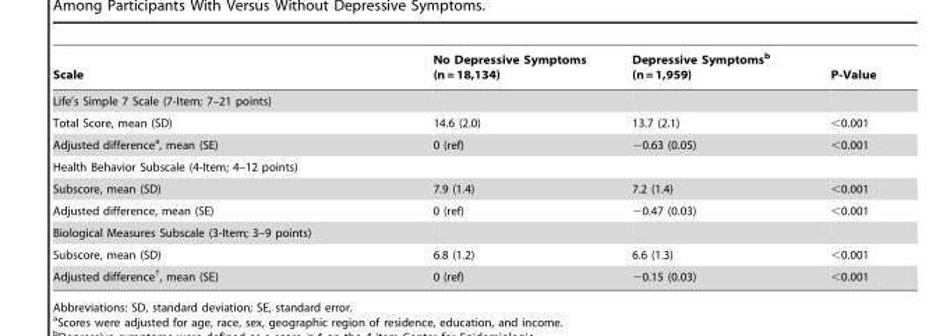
<table><thead><tr><td>Scale</td><td>No Depressive Symptoms (n = 18,134)</td><td>Depressive Symptoms<sup>b</sup> (n = 1,959)</td><td>P-Value</td></tr></thead><tbody><tr><td colspan="4">Life’s Simple 7 Scale (7-Item; 7–21 points)</td></tr><tr><td>Total Score, mean (SD)</td><td>14.6 (2.0)</td><td>13.7 (2.1)</td><td>&lt;0.001</td></tr><tr><td>Adjusted difference<sup>a</sup>, mean (SE)</td><td>0 (ref)</td><td>−0.63 (0.05)</td><td>&lt;0.001</td></tr><tr><td colspan="4">Health Behavior Subscale (4-Item; 4–12 points)</td></tr><tr><td>Subscore, mean (SD)</td><td>7.9 (1.4)</td><td>7.2 (1.4)</td><td>&lt;0.001</td></tr><tr><td>Adjusted difference, mean (SE)</td><td>0 (ref)</td><td>−0.47 (0.03)</td><td>&lt;0.001</td></tr><tr><td colspan="4">Biological Measures Subscale (3-Item; 3–9 points)</td></tr><tr><td>Subscore, mean (SD)</td><td>6.8 (1.2)</td><td>6.6 (1.3)</td><td>&lt;0.001</td></tr><tr><td>Adjusted difference<sup>†</sup>, mean (SE)</td><td>0 (ref)</td><td>−0.15 (0.03)</td><td>&lt;0.001</td></tr></tbody></table>